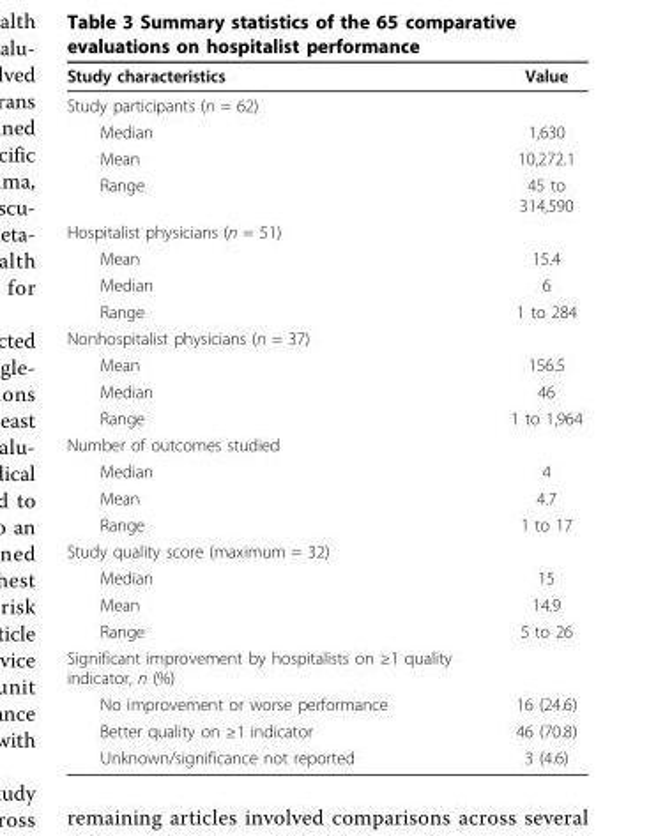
<table><thead><tr><td>Study characteristics</td><td>Value</td></tr></thead><tbody><tr><td colspan="2">Study participants (n = 62)</td></tr><tr><td>Median</td><td>1,630</td></tr><tr><td>Mean</td><td>10,272.1</td></tr><tr><td>Range</td><td>45 to 314,590</td></tr><tr><td colspan="2">Hospitalist physicians (n = 51)</td></tr><tr><td>Mean</td><td>15.4</td></tr><tr><td>Median</td><td>6</td></tr><tr><td>Range</td><td>1 to 284</td></tr><tr><td colspan="2">Nonhospitalist physicians (n = 37)</td></tr><tr><td>Mean</td><td>156.5</td></tr><tr><td>Median</td><td>46</td></tr><tr><td>Range</td><td>1 to 1,964</td></tr><tr><td colspan="2">Number of outcomes studied</td></tr><tr><td>Median</td><td>4</td></tr><tr><td>Mean</td><td>4.7</td></tr><tr><td>Range</td><td>1 to 17</td></tr><tr><td colspan="2">Study quality score (maximum = 32)</td></tr><tr><td>Median</td><td>15</td></tr><tr><td>Mean</td><td>14.9</td></tr><tr><td>Range</td><td>5 to 26</td></tr><tr><td colspan="2">Significant improvement by hospitalists on ≥1 quality indicator, n (%)</td></tr><tr><td>No improvement or worse performance</td><td>16 (24.6)</td></tr><tr><td>Better quality on ≥1 indicator</td><td>46 (70.8)</td></tr><tr><td>Unknown/significance not reported</td><td>3 (4.6)</td></tr></tbody></table>